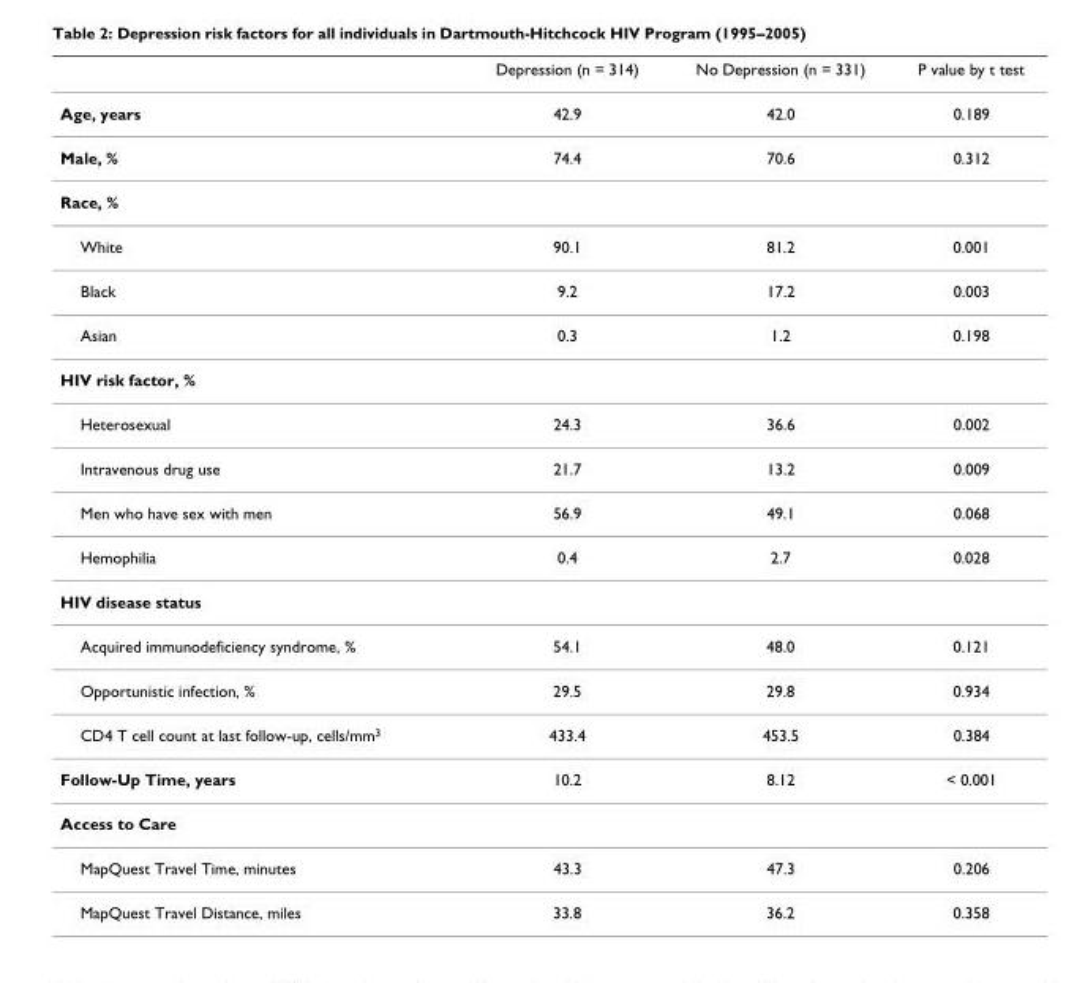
<table><thead><tr><td></td><td>Depression (n = 314)</td><td>No Depression (n = 331)</td><td>P value by t test</td></tr></thead><tbody><tr><td>Age, years</td><td>42.9</td><td>42.0</td><td>0.189</td></tr><tr><td>Male, %</td><td>74.4</td><td>70.6</td><td>0.312</td></tr><tr><td colspan="4">Race, %</td></tr><tr><td>White</td><td>90.1</td><td>81.2</td><td>0.001</td></tr><tr><td>Black</td><td>9.2</td><td>17.2</td><td>0.003</td></tr><tr><td>Asian</td><td>0.3</td><td>1.2</td><td>0.198</td></tr><tr><td colspan="4">HIV risk factor, %</td></tr><tr><td>Heterosexual</td><td>24.3</td><td>36.6</td><td>0.002</td></tr><tr><td>Intravenous drug use</td><td>21.7</td><td>13.2</td><td>0.009</td></tr><tr><td>Men who have sex with men</td><td>56.9</td><td>49.1</td><td>0.068</td></tr><tr><td>Hemophilia</td><td>0.4</td><td>2.7</td><td>0.028</td></tr><tr><td colspan="4">HIV disease status</td></tr><tr><td>Acquired immunodeficiency syndrome, %</td><td>54.1</td><td>48.0</td><td>0.121</td></tr><tr><td>Opportunistic infection, %</td><td>29.5</td><td>29.8</td><td>0.934</td></tr><tr><td>CD4 T cell count at last follow-up, cells/mm<sup>3</sup></td><td>433.4</td><td>453.5</td><td>0.384</td></tr><tr><td>Follow-Up Time, years</td><td>10.2</td><td>8.12</td><td>&lt; 0.001</td></tr><tr><td colspan="4">Access to Care</td></tr><tr><td>MapQuest Travel Time, minutes</td><td>43.3</td><td>47.3</td><td>0.206</td></tr><tr><td>MapQuest Travel Distance, miles</td><td>33.8</td><td>36.2</td><td>0.358</td></tr></tbody></table>